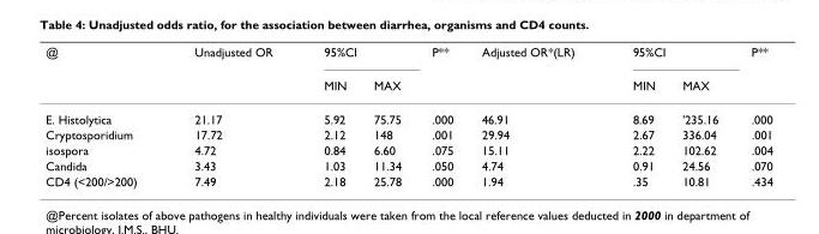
<table><thead><tr><td rowspan="2">@</td><td rowspan="2">Unadjusted OR</td><td colspan="2">95%CI</td><td rowspan="2">P**</td><td rowspan="2">Adjusted OR*(LR)</td><td colspan="2">95%CI</td><td rowspan="2">P**</td></tr><tr><td>MIN</td><td>MAX</td><td>MIN</td><td>MAX</td></tr></thead><tbody><tr><td>E. Histolytica</td><td>21.17</td><td>5.92</td><td>75.75</td><td>.000</td><td>46.91</td><td>8.69</td><td>&#x27;235.16</td><td>.000</td></tr><tr><td>Cryptosporidium</td><td>17.72</td><td>2.12</td><td>148</td><td>.001</td><td>29.94</td><td>2.67</td><td>336.04</td><td>.001</td></tr><tr><td>isospora</td><td>4.72</td><td>0.84</td><td>6.60</td><td>.075</td><td>15.11</td><td>2.22</td><td>102.62</td><td>.004</td></tr><tr><td>Candida</td><td>3.43</td><td>1.03</td><td>11.34</td><td>.050</td><td>4.74</td><td>0.91</td><td>24.56</td><td>.070</td></tr><tr><td>CD4 (&lt;200/&gt;200)</td><td>7.49</td><td>2.18</td><td>25.78</td><td>.000</td><td>1.94</td><td>.35</td><td>10.81</td><td>.434</td></tr></tbody></table>